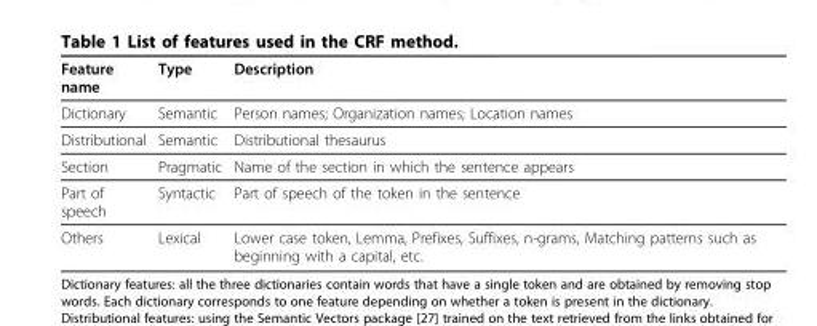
<table><thead><tr><td>Feature name</td><td>Type</td><td>Description</td></tr></thead><tbody><tr><td>Dictionary</td><td>Semantic</td><td>Person names; Organization names; Location names</td></tr><tr><td>Distributional</td><td>Semantic</td><td>Distributional thesaurus</td></tr><tr><td>Section</td><td>Pragmatic</td><td>Name of the section in which the sentence appears</td></tr><tr><td>Part of speech</td><td>Syntactic</td><td>Part of speech of the token in the sentence</td></tr><tr><td>Others</td><td>Lexical</td><td>Lower case token, Lemma, Prefixes, Suffixes, n-grams, Matching patterns such as beginning with a capital, etc.</td></tr></tbody></table>